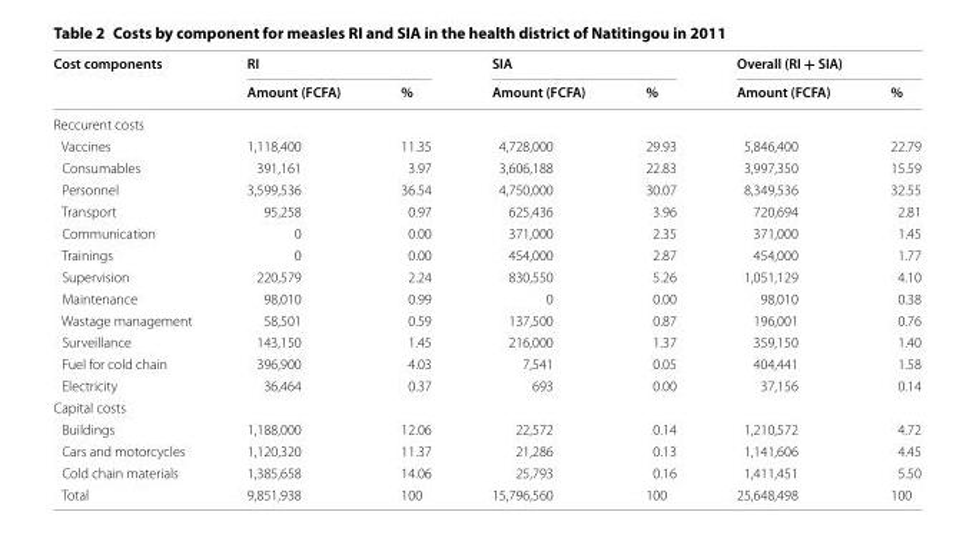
<table><thead><tr><td rowspan="2">Cost components</td><td colspan="2">RI</td><td colspan="2">SIA</td><td colspan="2">Overall (RI + SIA)</td></tr><tr><td>Amount (FCFA)</td><td>%</td><td>Amount (FCFA)</td><td>%</td><td>Amount (FCFA)</td><td>%</td></tr></thead><tbody><tr><td colspan="7">Reccurent costs</td></tr><tr><td>Vaccines</td><td>1,118,400</td><td>11.35</td><td>4,728,000</td><td>29.93</td><td>5,846,400</td><td>22.79</td></tr><tr><td>Consumables</td><td>391,161</td><td>3.97</td><td>3,606,188</td><td>22.83</td><td>3,997,350</td><td>15.59</td></tr><tr><td>Personnel</td><td>3,599,536</td><td>36.54</td><td>4,750,000</td><td>30.07</td><td>8,349,536</td><td>32.55</td></tr><tr><td>Transport</td><td>95,258</td><td>0.97</td><td>625,436</td><td>3.96</td><td>720,694</td><td>2.81</td></tr><tr><td>Communication</td><td>0</td><td>0.00</td><td>371,000</td><td>2.35</td><td>371,000</td><td>1.45</td></tr><tr><td>Trainings</td><td>0</td><td>0.00</td><td>454,000</td><td>2.87</td><td>454,000</td><td>1.77</td></tr><tr><td>Supervision</td><td>220,579</td><td>2.24</td><td>830,550</td><td>5.26</td><td>1,051,129</td><td>4.10</td></tr><tr><td>Maintenance</td><td>98,010</td><td>0.99</td><td>0</td><td>0.00</td><td>98,010</td><td>0.38</td></tr><tr><td>Wastage management</td><td>58,501</td><td>0.59</td><td>137,500</td><td>0.87</td><td>196,001</td><td>0.76</td></tr><tr><td>Surveillance</td><td>143,150</td><td>1.45</td><td>216,000</td><td>1.37</td><td>359,150</td><td>1.40</td></tr><tr><td>Fuel for cold chain</td><td>396,900</td><td>4.03</td><td>7,541</td><td>0.05</td><td>404,441</td><td>1.58</td></tr><tr><td>Electricity</td><td>36,464</td><td>0.37</td><td>693</td><td>0.00</td><td>37,156</td><td>0.14</td></tr><tr><td colspan="7">Capital costs</td></tr><tr><td>Buildings</td><td>1,188,000</td><td>12.06</td><td>22,572</td><td>0.14</td><td>1,210,572</td><td>4.72</td></tr><tr><td>Cars and motorcycles</td><td>1,120,320</td><td>11.37</td><td>21,286</td><td>0.13</td><td>1,141,606</td><td>4.45</td></tr><tr><td>Cold chain materials</td><td>1,385,658</td><td>14.06</td><td>25,793</td><td>0.16</td><td>1,411,451</td><td>5.50</td></tr><tr><td>Total</td><td>9,851,938</td><td>100</td><td>15,796,560</td><td>100</td><td>25,648,498</td><td>100</td></tr></tbody></table>